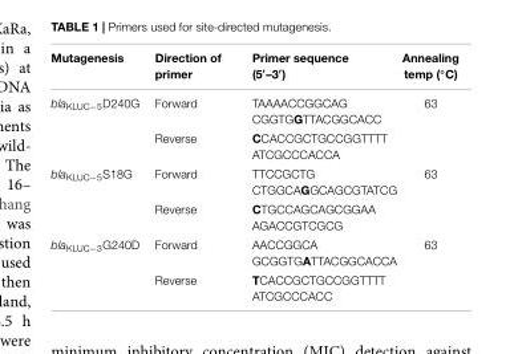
<table><thead><tr><td>Mutagenesis</td><td>Direction of primer</td><td>Primer sequence (5′–3′)</td><td>Annealing temp (◦C)</td></tr></thead><tbody><tr><td rowspan="2">bla<sub>KLUC−5</sub>D240G</td><td>Forward</td><td>TAAAACCGGCAG CGGTGGTTACGGCACC</td><td>63</td></tr><tr><td>Reverse</td><td>CCACCGCTGCCGGTTTT ATCGCCCACCA</td><td></td></tr><tr><td rowspan="2">bla<sub>KLUC−5</sub>S18G</td><td>Forward</td><td>TTCCGCTG CTGGCAGGCAGCGTATCG</td><td>63</td></tr><tr><td>Reverse</td><td>CTGCCAGCAGCGGAA AGACCGTCGCG</td><td></td></tr><tr><td rowspan="2">bla<sub>KLUC−3</sub>G240D</td><td>Forward</td><td>AACCGGCA GCGGTGATTACGGCACCA</td><td>63</td></tr><tr><td>Reverse</td><td>TCACCGCTGCCGGTTTT ATCGCCCACC</td><td></td></tr></tbody></table>